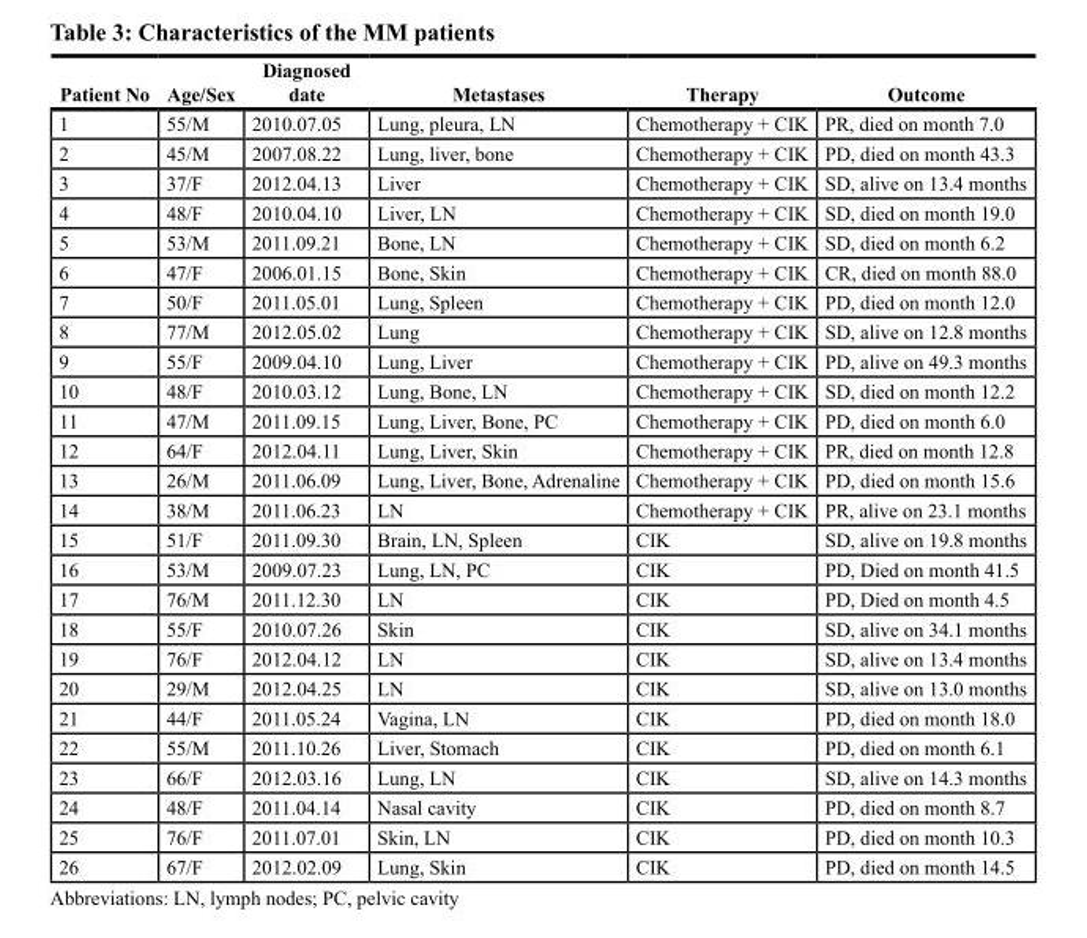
<table><thead><tr><td>Patient No</td><td>Age/Sex</td><td>Diagnosed date</td><td>Metastases</td><td>Therapy</td><td>Outcome</td></tr></thead><tbody><tr><td>1</td><td>55/M</td><td>2010.07.05</td><td>Lung, pleura, LN</td><td>Chemotherapy + CIK</td><td>PR, died on month 7.0</td></tr><tr><td>2</td><td>45/M</td><td>2007.08.22</td><td>Lung, liver, bone</td><td>Chemotherapy + CIK</td><td>PD, died on month 43.3</td></tr><tr><td>3</td><td>37/F</td><td>2012.04.13</td><td>Liver</td><td>Chemotherapy + CIK</td><td>SD, alive on 13.4 months</td></tr><tr><td>4</td><td>48/F</td><td>2010.04.10</td><td>Liver, LN</td><td>Chemotherapy + CIK</td><td>SD, died on month 19.0</td></tr><tr><td>5</td><td>53/M</td><td>2011.09.21</td><td>Bone, LN</td><td>Chemotherapy + CIK</td><td>SD, died on month 6.2</td></tr><tr><td>6</td><td>47/F</td><td>2006.01.15</td><td>Bone, Skin</td><td>Chemotherapy + CIK</td><td>CR, died on month 88.0</td></tr><tr><td>7</td><td>50/F</td><td>2011.05.01</td><td>Lung, Spleen</td><td>Chemotherapy + CIK</td><td>PD, died on month 12.0</td></tr><tr><td>8</td><td>77/M</td><td>2012.05.02</td><td>Lung</td><td>Chemotherapy + CIK</td><td>SD, alive on 12.8 months</td></tr><tr><td>9</td><td>55/F</td><td>2009.04.10</td><td>Lung, Liver</td><td>Chemotherapy + CIK</td><td>PD, alive on 49.3 months</td></tr><tr><td>10</td><td>48/F</td><td>2010.03.12</td><td>Lung, Bone, LN</td><td>Chemotherapy + CIK</td><td>SD, died on month 12.2</td></tr><tr><td>11</td><td>47/M</td><td>2011.09.15</td><td>Lung, Liver, Bone, PC</td><td>Chemotherapy + CIK</td><td>PD, died on month 6.0</td></tr><tr><td>12</td><td>64/F</td><td>2012.04.11</td><td>Lung, Liver, Skin</td><td>Chemotherapy + CIK</td><td>PR, died on month 12.8</td></tr><tr><td>13</td><td>26/M</td><td>2011.06.09</td><td>Lung, Liver, Bone, Adrenaline</td><td>Chemotherapy + CIK</td><td>PD, died on month 15.6</td></tr><tr><td>14</td><td>38/M</td><td>2011.06.23</td><td>LN</td><td>Chemotherapy + CIK</td><td>PR, alive on 23.1 months</td></tr><tr><td>15</td><td>51/F</td><td>2011.09.30</td><td>Brain, LN, Spleen</td><td>CIK</td><td>SD, alive on 19.8 months</td></tr><tr><td>16</td><td>53/M</td><td>2009.07.23</td><td>Lung, LN, PC</td><td>CIK</td><td>PD, Died on month 41.5</td></tr><tr><td>17</td><td>76/M</td><td>2011.12.30</td><td>LN</td><td>CIK</td><td>PD, Died on month 4.5</td></tr><tr><td>18</td><td>55/F</td><td>2010.07.26</td><td>Skin</td><td>CIK</td><td>SD, alive on 34.1 months</td></tr><tr><td>19</td><td>76/F</td><td>2012.04.12</td><td>LN</td><td>CIK</td><td>SD, alive on 13.4 months</td></tr><tr><td>20</td><td>29/M</td><td>2012.04.25</td><td>LN</td><td>CIK</td><td>SD, alive on 13.0 months</td></tr><tr><td>21</td><td>44/F</td><td>2011.05.24</td><td>Vagina, LN</td><td>CIK</td><td>PD, died on month 18.0</td></tr><tr><td>22</td><td>55/M</td><td>2011.10.26</td><td>Liver, Stomach</td><td>CIK</td><td>PD, died on month 6.1</td></tr><tr><td>23</td><td>66/F</td><td>2012.03.16</td><td>Lung, LN</td><td>CIK</td><td>SD, alive on 14.3 months</td></tr><tr><td>24</td><td>48/F</td><td>2011.04.14</td><td>Nasal cavity</td><td>CIK</td><td>PD, died on month 8.7</td></tr><tr><td>25</td><td>76/F</td><td>2011.07.01</td><td>Skin, LN</td><td>CIK</td><td>PD, died on month 10.3</td></tr><tr><td>26</td><td>67/F</td><td>2012.02.09</td><td>Lung, Skin</td><td>CIK</td><td>PD, died on month 14.5</td></tr></tbody></table>